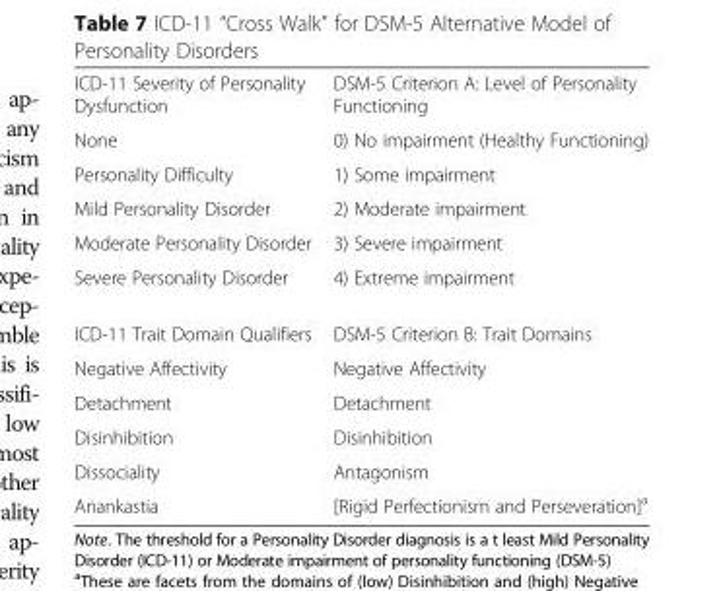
<table><tbody><tr><td>ICD-11 Severity of Personality Dysfunction</td><td>DSM-5 Criterion A: Level of Personality Functioning</td></tr><tr><td>None</td><td>0) No impairment (Healthy Functioning)</td></tr><tr><td>Personality Difficulty</td><td>1) Some impairment</td></tr><tr><td>Mild Personality Disorder</td><td>2) Moderate impairment</td></tr><tr><td>Moderate Personality Disorder</td><td>3) Severe impairment</td></tr><tr><td>Severe Personality Disorder</td><td>4) Extreme impairment</td></tr><tr><td>ICD-11 Trait Domain Qualifiers</td><td>DSM-5 Criterion B: Trait Domains</td></tr><tr><td>Negative Affectivity</td><td>Negative Affectivity</td></tr><tr><td>Detachment</td><td>Detachment</td></tr><tr><td>Disinhibition</td><td>Disinhibition</td></tr><tr><td>Dissociality</td><td>Antagonism</td></tr><tr><td>Anankastia</td><td>[Rigid Perfectionism and Perseveration]<sup>a</sup></td></tr></tbody></table>